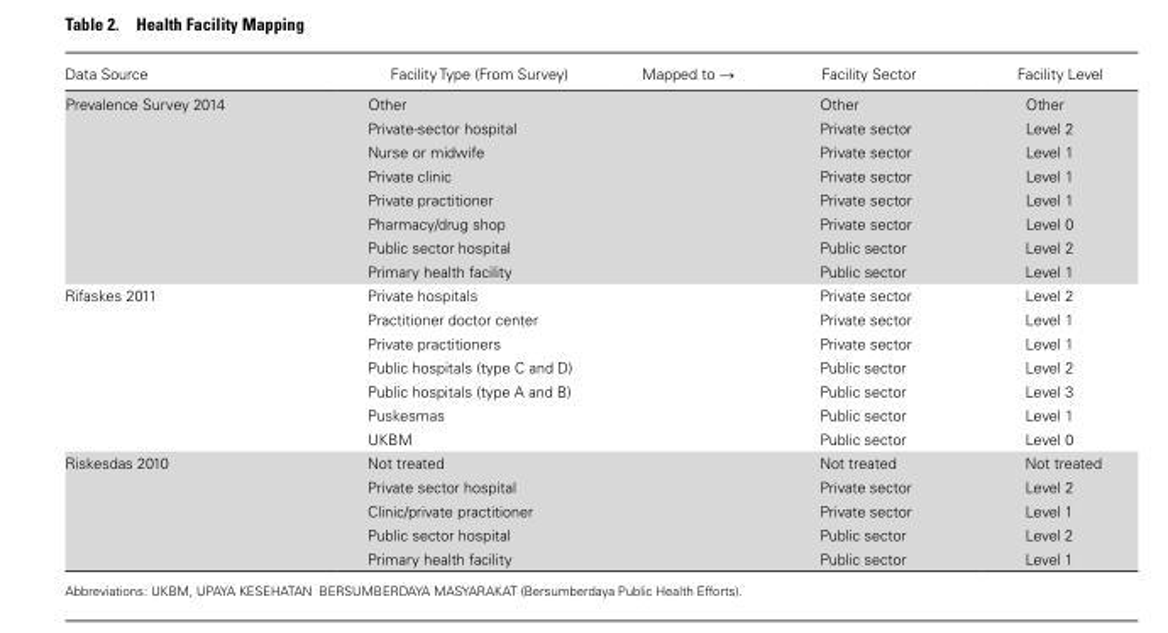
<table><thead><tr><td>Data Source</td><td>Facility Type (From Survey)</td><td>Mapped to →</td><td>Facility Sector</td><td>Facility Level</td></tr></thead><tbody><tr><td rowspan="8">Prevalence Survey 2014</td><td>Other</td><td></td><td>Other</td><td>Other</td></tr><tr><td>Private-sector hospital</td><td></td><td>Private sector</td><td>Level 2</td></tr><tr><td>Nurse or midwife</td><td></td><td>Private sector</td><td>Level 1</td></tr><tr><td>Private clinic</td><td></td><td>Private sector</td><td>Level 1</td></tr><tr><td>Private practitioner</td><td></td><td>Private sector</td><td>Level 1</td></tr><tr><td>Pharmacy/drug shop</td><td></td><td>Private sector</td><td>Level 0</td></tr><tr><td>Public sector hospital</td><td></td><td>Public sector</td><td>Level 2</td></tr><tr><td>Primary health facility</td><td></td><td>Public sector</td><td>Level 1</td></tr><tr><td rowspan="7">Rifaskes 2011</td><td>Private hospitals</td><td></td><td>Private sector</td><td>Level 2</td></tr><tr><td>Practitioner doctor center</td><td></td><td>Private sector</td><td>Level 1</td></tr><tr><td>Private practitioners</td><td></td><td>Private sector</td><td>Level 1</td></tr><tr><td>Public hospitals (type C and D)</td><td></td><td>Public sector</td><td>Level 2</td></tr><tr><td>Public hospitals (type A and B)</td><td></td><td>Public sector</td><td>Level 3</td></tr><tr><td>Puskesmas</td><td></td><td>Public sector</td><td>Level 1</td></tr><tr><td>UKBM</td><td></td><td>Public sector</td><td>Level 0</td></tr><tr><td rowspan="5">Riskesdas 2010</td><td>Not treated</td><td></td><td>Not treated</td><td>Not treated</td></tr><tr><td>Private sector hospital</td><td></td><td>Private sector</td><td>Level 2</td></tr><tr><td>Clinic/private practitioner</td><td></td><td>Private sector</td><td>Level 1</td></tr><tr><td>Public sector hospital</td><td></td><td>Public sector</td><td>Level 2</td></tr><tr><td>Primary health facility</td><td></td><td>Public sector</td><td>Level 1</td></tr></tbody></table>